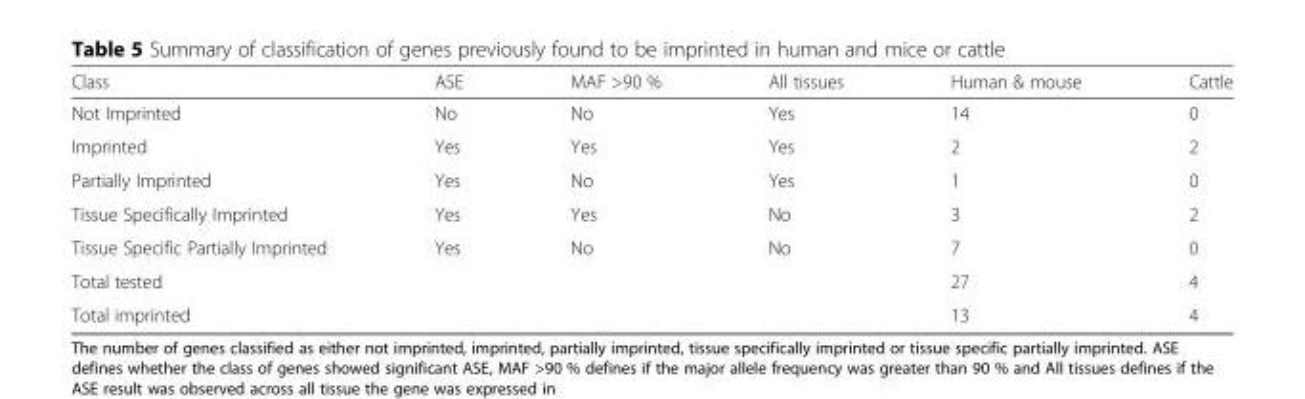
<table><thead><tr><td>Class</td><td>ASE</td><td>MAF &gt;90 %</td><td>All tissues</td><td>Human &amp; mouse</td><td>Cattle</td></tr></thead><tbody><tr><td>Not Imprinted</td><td>No</td><td>No</td><td>Yes</td><td>14</td><td>0</td></tr><tr><td>Imprinted</td><td>Yes</td><td>Yes</td><td>Yes</td><td>2</td><td>2</td></tr><tr><td>Partially Imprinted</td><td>Yes</td><td>No</td><td>Yes</td><td>1</td><td>0</td></tr><tr><td>Tissue Specifically Imprinted</td><td>Yes</td><td>Yes</td><td>No</td><td>3</td><td>2</td></tr><tr><td>Tissue Specific Partially Imprinted</td><td>Yes</td><td>No</td><td>No</td><td>7</td><td>0</td></tr><tr><td>Total tested</td><td></td><td></td><td></td><td>27</td><td>4</td></tr><tr><td>Total imprinted</td><td></td><td></td><td></td><td>13</td><td>4</td></tr></tbody></table>